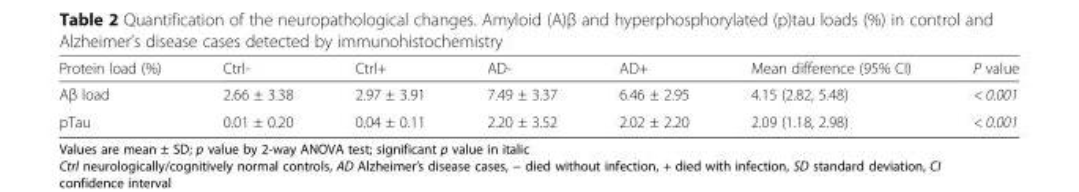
<table><thead><tr><td>Protein load (%)</td><td>Ctrl-</td><td>Ctrl+</td><td>AD-</td><td>AD+</td><td>Mean difference (95% CI)</td><td>P value</td></tr></thead><tbody><tr><td>Aβ load</td><td>2.66 ± 3.38</td><td>2.97 ± 3.91</td><td>7.49 ± 3.37</td><td>6.46 ± 2.95</td><td>4.15 (2.82, 5.48)</td><td>&lt; 0.001</td></tr><tr><td>pTau</td><td>0.01 ± 0.20</td><td>0.04 ± 0.11</td><td>2.20 ± 3.52</td><td>2.02 ± 2.20</td><td>2.09 (1.18, 2.98)</td><td>&lt; 0.001</td></tr></tbody></table>